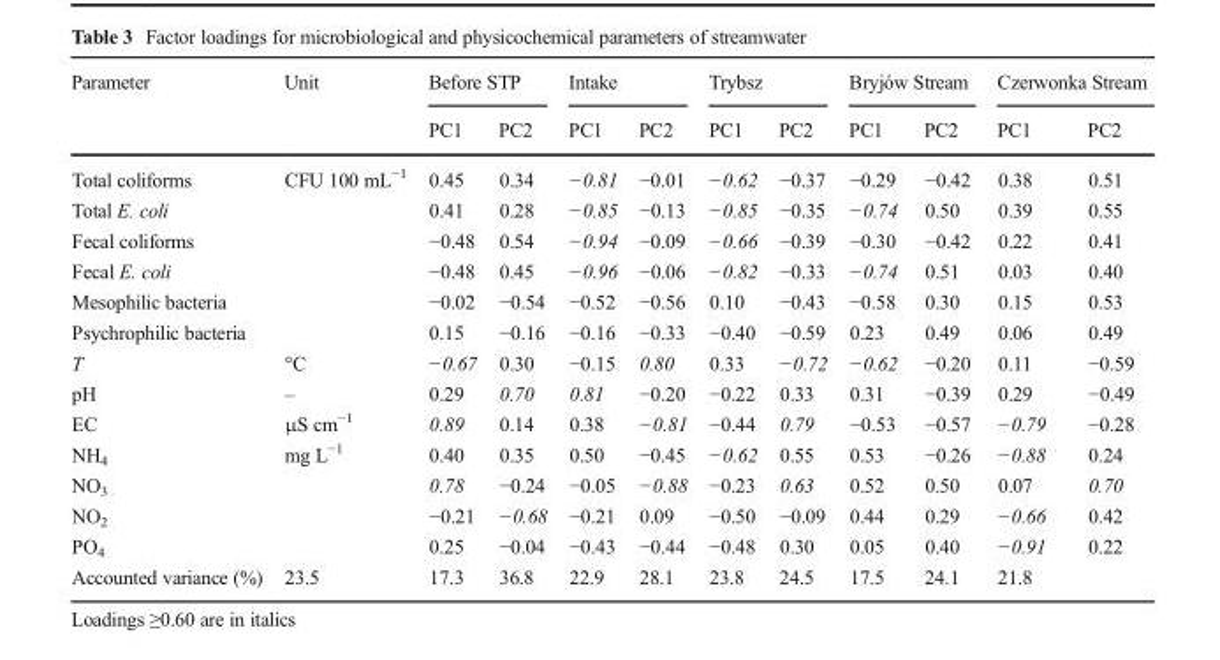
<table><thead><tr><td rowspan="2">Parameter</td><td rowspan="2">Unit</td><td colspan="2">Before STP</td><td colspan="2">Intake</td><td colspan="2">Trybsz</td><td colspan="2">Bryjów Stream</td><td colspan="2">Czerwonka Stream</td></tr><tr><td>PC1</td><td>PC2</td><td>PC1</td><td>PC2</td><td>PC1</td><td>PC2</td><td>PC1</td><td>PC2</td><td>PC1</td><td>PC2</td></tr></thead><tbody><tr><td>Total coliforms</td><td rowspan="6">CFU 100 mL<sup>−1</sup></td><td>0.45</td><td>0.34</td><td>−0.81</td><td>−0.01</td><td>−0.62</td><td>−0.37</td><td>−0.29</td><td>−0.42</td><td>0.38</td><td>0.51</td></tr><tr><td>Total E. coli</td><td>0.41</td><td>0.28</td><td>−0.85</td><td>−0.13</td><td>−0.85</td><td>−0.35</td><td>−0.74</td><td>0.50</td><td>0.39</td><td>0.55</td></tr><tr><td>Fecal coliforms</td><td>−0.48</td><td>0.54</td><td>−0.94</td><td>−0.09</td><td>−0.66</td><td>−0.39</td><td>−0.30</td><td>−0.42</td><td>0.22</td><td>0.41</td></tr><tr><td>Fecal E. coli</td><td>−0.48</td><td>0.45</td><td>−0.96</td><td>−0.06</td><td>−0.82</td><td>−0.33</td><td>−0.74</td><td>0.51</td><td>0.03</td><td>0.40</td></tr><tr><td>Mesophilic bacteria</td><td>−0.02</td><td>−0.54</td><td>−0.52</td><td>−0.56</td><td>0.10</td><td>−0.43</td><td>−0.58</td><td>0.30</td><td>0.15</td><td>0.53</td></tr><tr><td>Psychrophilic bacteria</td><td>0.15</td><td>−0.16</td><td>−0.16</td><td>−0.33</td><td>−0.40</td><td>−0.59</td><td>0.23</td><td>0.49</td><td>0.06</td><td>0.49</td></tr><tr><td>T</td><td>°C</td><td>−0.67</td><td>0.30</td><td>−0.15</td><td>0.80</td><td>0.33</td><td>−0.72</td><td>−0.62</td><td>−0.20</td><td>0.11</td><td>−0.59</td></tr><tr><td>pH</td><td>–</td><td>0.29</td><td>0.70</td><td>0.81</td><td>−0.20</td><td>−0.22</td><td>0.33</td><td>0.31</td><td>−0.39</td><td>0.29</td><td>−0.49</td></tr><tr><td>EC</td><td>μS cm<sup>−1</sup></td><td>0.89</td><td>0.14</td><td>0.38</td><td>−0.81</td><td>−0.44</td><td>0.79</td><td>−0.53</td><td>−0.57</td><td>−0.79</td><td>−0.28</td></tr><tr><td>NH<sub>4</sub></td><td rowspan="4">mg L<sup>−1</sup></td><td>0.40</td><td>0.35</td><td>0.50</td><td>−0.45</td><td>−0.62</td><td>0.55</td><td>0.53</td><td>−0.26</td><td>−0.88</td><td>0.24</td></tr><tr><td>NO<sub>3</sub></td><td>0.78</td><td>−0.24</td><td>−0.05</td><td>−0.88</td><td>−0.23</td><td>0.63</td><td>0.52</td><td>0.50</td><td>0.07</td><td>0.70</td></tr><tr><td>NO<sub>2</sub></td><td>−0.21</td><td>−0.68</td><td>−0.21</td><td>0.09</td><td>−0.50</td><td>−0.09</td><td>0.44</td><td>0.29</td><td>−0.66</td><td>0.42</td></tr><tr><td>PO<sub>4</sub></td><td>0.25</td><td>−0.04</td><td>−0.43</td><td>−0.44</td><td>−0.48</td><td>0.30</td><td>0.05</td><td>0.40</td><td>−0.91</td><td>0.22</td></tr><tr><td>Accounted variance (%)</td><td>23.5</td><td>17.3</td><td>36.8</td><td>22.9</td><td>28.1</td><td>23.8</td><td>24.5</td><td>17.5</td><td>24.1</td><td>21.8</td><td></td></tr></tbody></table>